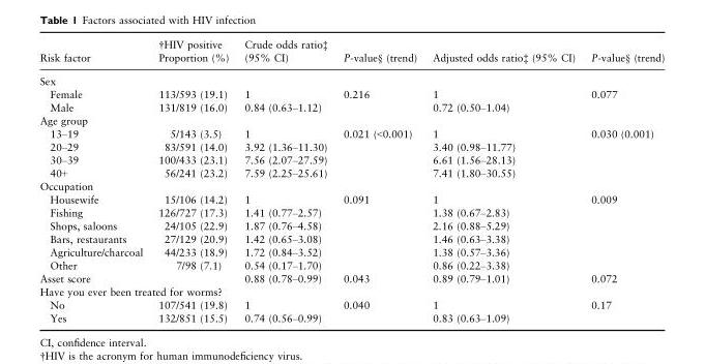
<table><thead><tr><td>Risk factor</td><td>†HIV positive Proportion (%)</td><td>Crude odds ratio‡ (95% CI)</td><td>P-value§ (trend)</td><td>Adjusted odds ratio‡ (95% CI)</td><td>P-value§ (trend)</td></tr></thead><tbody><tr><td colspan="6">Sex</td></tr><tr><td>Female</td><td>113/593 (19.1)</td><td>1</td><td rowspan="2">0.216</td><td>1</td><td rowspan="2">0.077</td></tr><tr><td>Male</td><td>131/819 (16.0)</td><td>0.84 (0.63–1.12)</td><td>0.72 (0.50–1.04)</td></tr><tr><td colspan="6">Age group</td></tr><tr><td>13–19</td><td>5/143 (3.5)</td><td>1</td><td rowspan="4">0.021 (&lt;0.001)</td><td>1</td><td rowspan="4">0.030 (0.001)</td></tr><tr><td>20–29</td><td>83/591 (14.0)</td><td>3.92 (1.36–11.30)</td><td>3.40 (0.98–11.77)</td></tr><tr><td>30–39</td><td>100/433 (23.1)</td><td>7.56 (2.07–27.59)</td><td>6.61 (1.56–28.13)</td></tr><tr><td>40+</td><td>56/241 (23.2)</td><td>7.59 (2.25–25.61)</td><td>7.41 (1.80–30.55)</td></tr><tr><td colspan="6">Occupation</td></tr><tr><td>Housewife</td><td>15/106 (14.2)</td><td>1</td><td rowspan="6">0.091</td><td>1</td><td rowspan="6">0.009</td></tr><tr><td>Fishing</td><td>126/727 (17.3)</td><td>1.41 (0.77–2.57)</td><td>1.38 (0.67–2.83)</td></tr><tr><td>Shops, saloons</td><td>24/105 (22.9)</td><td>1.87 (0.76–4.58)</td><td>2.16 (0.88–5.29)</td></tr><tr><td>Bars, restaurants</td><td>27/129 (20.9)</td><td>1.42 (0.65–3.08)</td><td>1.46 (0.63–3.38)</td></tr><tr><td>Agriculture/charcoal</td><td>44/233 (18.9)</td><td>1.72 (0.84–3.52)</td><td>1.38 (0.57–3.36)</td></tr><tr><td>Other</td><td>7/98 (7.1)</td><td>0.54 (0.17–1.70)</td><td>0.86 (0.22–3.38)</td></tr><tr><td>Asset score</td><td></td><td>0.88 (0.78–0.99)</td><td>0.043</td><td>0.89 (0.79–1.01)</td><td>0.072</td></tr><tr><td colspan="6">Have you ever been treated for worms?</td></tr><tr><td>No</td><td>107/541 (19.8)</td><td>1</td><td rowspan="2">0.040</td><td>1</td><td rowspan="2">0.17</td></tr><tr><td>Yes</td><td>132/851 (15.5)</td><td>0.74 (0.56–0.99)</td><td>0.83 (0.63–1.09)</td></tr></tbody></table>